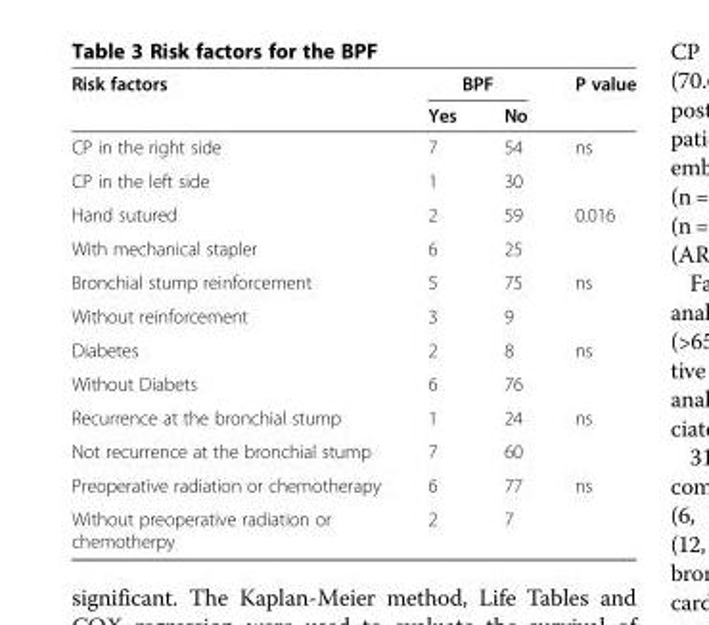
<table><thead><tr><td rowspan="2">Risk factors</td><td colspan="2">BPF</td><td rowspan="2">P value</td></tr><tr><td>Yes</td><td>No</td></tr></thead><tbody><tr><td>CP in the right side</td><td>7</td><td>54</td><td>ns</td></tr><tr><td>CP in the left side</td><td>1</td><td>30</td><td></td></tr><tr><td>Hand sutured</td><td>2</td><td>59</td><td>0.016</td></tr><tr><td>With mechanical stapler</td><td>6</td><td>25</td><td></td></tr><tr><td>Bronchial stump reinforcement</td><td>5</td><td>75</td><td>ns</td></tr><tr><td>Without reinforcement</td><td>3</td><td>9</td><td></td></tr><tr><td>Diabetes</td><td>2</td><td>8</td><td>ns</td></tr><tr><td>Without Diabets</td><td>6</td><td>76</td><td></td></tr><tr><td>Recurrence at the bronchial stump</td><td>1</td><td>24</td><td>ns</td></tr><tr><td>Not recurrence at the bronchial stump</td><td>7</td><td>60</td><td></td></tr><tr><td>Preoperative radiation or chemotherapy</td><td>6</td><td>77</td><td>ns</td></tr><tr><td>Without preoperative radiation or chemotherpy</td><td>2</td><td>7</td><td></td></tr></tbody></table>